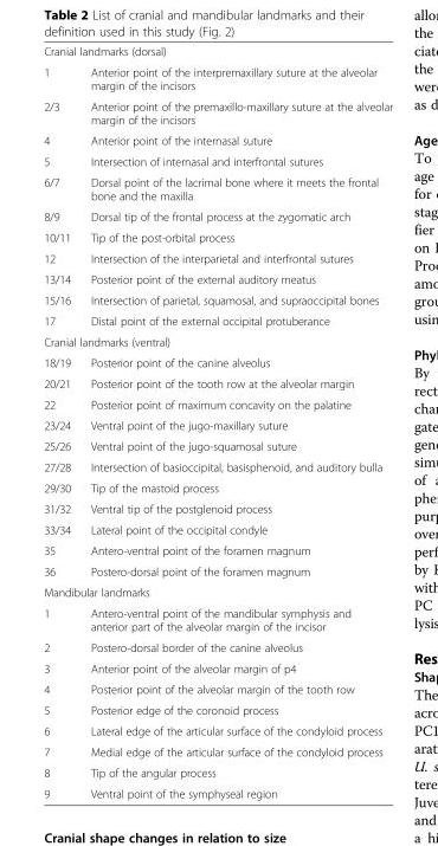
<table><tbody><tr><td colspan="2">Cranial landmarks (dorsal)</td></tr><tr><td>1</td><td>Anterior point of the interpremaxillary suture at the alveolar margin of the incisors</td></tr><tr><td>2/3</td><td>Anterior point of the premaxillo-maxillary suture at the alveolar margin of the incisors</td></tr><tr><td>4</td><td>Anterior point of the internasal suture</td></tr><tr><td>5</td><td>Intersection of internasal and interfrontal sutures</td></tr><tr><td>6/7</td><td>Dorsal point of the lacrimal bone where it meets the frontal bone and the maxilla</td></tr><tr><td>8/9</td><td>Dorsal tip of the frontal process at the zygomatic arch</td></tr><tr><td>10/11</td><td>Tip of the post-orbital process</td></tr><tr><td>12</td><td>Intersection of the interparietal and interfrontal sutures</td></tr><tr><td>13/14</td><td>Posterior point of the external auditory meatus</td></tr><tr><td>15/16</td><td>Intersection of parietal, squamosal, and supraoccipital bones</td></tr><tr><td>17</td><td>Distal point of the external occipital protuberance</td></tr><tr><td colspan="2">Cranial landmarks (ventral)</td></tr><tr><td>18/19</td><td>Posterior point of the canine alveolus</td></tr><tr><td>20/21</td><td>Posterior point of the tooth row at the alveolar margin</td></tr><tr><td>22</td><td>Posterior point of maximum concavity on the palatine</td></tr><tr><td>23/24</td><td>Ventral point of the jugo-maxillary suture</td></tr><tr><td>25/26</td><td>Ventral point of the jugo-squamosal suture</td></tr><tr><td>27/28</td><td>Intersection of basioccipital, basisphenoid, and auditory bulla</td></tr><tr><td>29/30</td><td>Tip of the mastoid process</td></tr><tr><td>31/32</td><td>Ventral tip of the postglenoid process</td></tr><tr><td>33/34</td><td>Lateral point of the occipital condyle</td></tr><tr><td>35</td><td>Antero-ventral point of the foramen magnum</td></tr><tr><td>36</td><td>Postero-dorsal point of the foramen magnum</td></tr><tr><td colspan="2">Mandibular landmarks</td></tr><tr><td>1</td><td>Antero-ventral point of the mandibular symphysis and anterior part of the alveolar margin of the incisor</td></tr><tr><td>2</td><td>Postero-dorsal border of the canine alveolus</td></tr><tr><td>3</td><td>Anterior point of the alveolar margin of p4</td></tr><tr><td>4</td><td>Posterior point of the alveolar margin of the tooth row</td></tr><tr><td>5</td><td>Posterior edge of the coronoid process</td></tr><tr><td>6</td><td>Lateral edge of the articular surface of the condyloid process</td></tr><tr><td>7</td><td>Medial edge of the articular surface of the condyloid process</td></tr><tr><td>8</td><td>Tip of the angular process</td></tr><tr><td>9</td><td>Ventral point of the symphyseal region</td></tr></tbody></table>